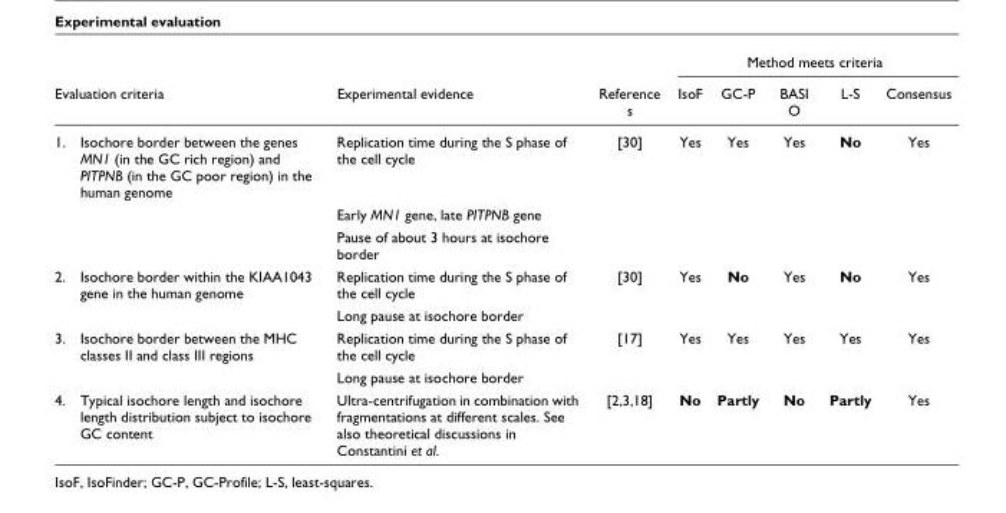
<table><thead><tr><td></td><td></td><td rowspan="2">Experimental evidence</td><td rowspan="2">Reference s</td><td colspan="5">Method meets criteria</td></tr><tr><td colspan="2">Evaluation criteria</td><td>IsoF</td><td>GC-P</td><td>BASI O</td><td>L-S</td><td>Consensus</td></tr></thead><tbody><tr><td rowspan="3">1.</td><td>Isochore border between the genes MN1 (in the GC rich region) and PITPNB (in the GC poor region) in the human genome</td><td>Replication time during the S phase of the cell cycle</td><td>[30]</td><td>Yes</td><td>Yes</td><td>Yes</td><td>No</td><td>Yes</td></tr><tr><td></td><td>Early MN1 gene, late PITPNB gene</td><td></td><td></td><td></td><td></td><td></td><td></td></tr><tr><td></td><td>Pause of about 3 hours at isochore border</td><td></td><td></td><td></td><td></td><td></td><td></td></tr><tr><td rowspan="2">2.</td><td>Isochore border within the KIAA1043 gene in the human genome</td><td>Replication time during the S phase of the cell cycle</td><td>[30]</td><td>Yes</td><td>No</td><td>Yes</td><td>No</td><td>Yes</td></tr><tr><td></td><td>Long pause at isochore border</td><td></td><td></td><td></td><td></td><td></td><td></td></tr><tr><td rowspan="2">3.</td><td>Isochore border between the MHC classes II and class III regions</td><td>Replication time during the S phase of the cell cycle</td><td>[17]</td><td>Yes</td><td>Yes</td><td>Yes</td><td>Yes</td><td>Yes</td></tr><tr><td></td><td>Long pause at isochore border</td><td></td><td></td><td></td><td></td><td></td><td></td></tr><tr><td>4.</td><td>Typical isochore length and isochore length distribution subject to isochore GC content</td><td>Ultra-centrifugation in combination with fragmentations at different scales. See also theoretical discussions in Constantini et al.</td><td>[2,3,18]</td><td>No</td><td>Partly</td><td>No</td><td>Partly</td><td>Yes</td></tr></tbody></table>